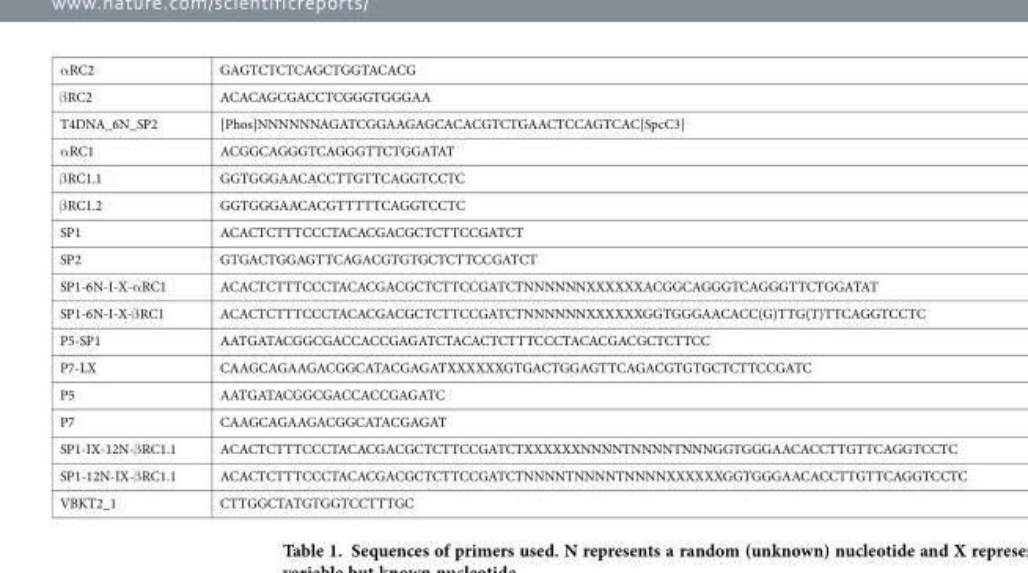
<table><tbody><tr><td>α RC2</td><td>GAGTCTCTCAGCTGGTACACG</td></tr><tr><td>β RC2</td><td>ACACAGCGACCTCGGGTGGGAA</td></tr><tr><td>T4DNA_6N_SP2</td><td>[Phos]NNNNNNAGATCGGAAGAGCACACGTCTGAACTCCAGTCAC[SpcC3]</td></tr><tr><td>α RC1</td><td>ACGGCAGGGTCAGGGTTCTGGATAT</td></tr><tr><td>β RC1.1</td><td>GGTGGGAACACCTTGTTCAGGTCCTC</td></tr><tr><td>β RC1.2</td><td>GGTGGGAACACGTTTTTCAGGTCCTC</td></tr><tr><td>SP1</td><td>ACACTCTTTCCCTACACGACGCTCTTCCGATCT</td></tr><tr><td>SP2</td><td>GTGACTGGAGTTCAGACGTGTGCTCTTCCGATCT</td></tr><tr><td>SP1-6N-I-X-α RC1</td><td>ACACTCTTTCCCTACACGACGCTCTTCCGATCTNNNNNNXXXXXXACGGCAGGGTCAGGGTTCTGGATAT</td></tr><tr><td>SP1-6N-I-X-β RC1</td><td>ACACTCTTTCCCTACACGACGCTCTTCCGATCTNNNNNNXXXXXXGGTGGGAACACC(G)TTG(T)TTCAGGTCCTC</td></tr><tr><td>P5-SP1</td><td>AATGATACGGCGACCACCGAGATCTACACTCTTTCCCTACACGACGCTCTTCC</td></tr><tr><td>P7-LX</td><td>CAAGCAGAAGACGGCATACGAGATXXXXXXGTGACTGGAGTTCAGACGTGTGCTCTTCCGATC</td></tr><tr><td>P5</td><td>AATGATACGGCGACCACCGAGATC</td></tr><tr><td>P7</td><td>CAAGCAGAAGACGGCATACGAGAT</td></tr><tr><td>SP1-IX-12N-β RC1.1</td><td>ACACTCTTTCCCTACACGACGCTCTTCCGATCTXXXXXXNNNNTNNNNTNNNGGTGGGAACACCTTGTTCAGGTCCTC</td></tr><tr><td>SP1-12N-IX-β RC1.1</td><td>ACACTCTTTCCCTACACGACGCTCTTCCGATCTNNNNTNNNNTNNNNXXXXXXGGTGGGAACACCTTGTTCAGGTCCTC</td></tr><tr><td>VBKT2_1</td><td>CTTGGCTATGTGGTCCTTTGC</td></tr></tbody></table>